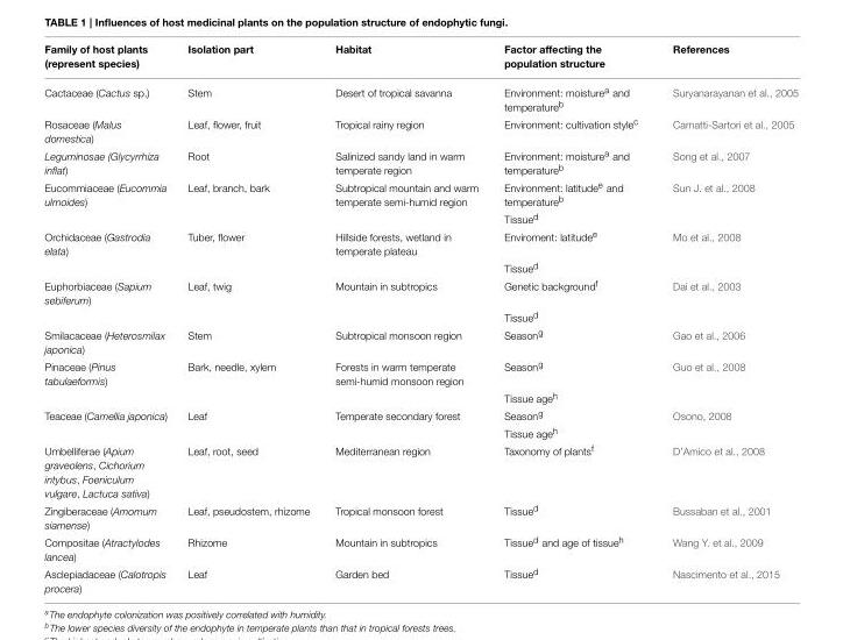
<table><thead><tr><td>Family of host plants (represent species)</td><td>Isolation part</td><td>Habitat</td><td>Factor affecting the population structure</td><td>References</td></tr></thead><tbody><tr><td>Cactaceae (Cactus sp.)</td><td>Stem</td><td>Desert of tropical savanna</td><td>Environment: moisture<sup>a</sup> and temperature<sup>b</sup></td><td>Suryanarayanan et al., 2005</td></tr><tr><td>Rosaceae (Malus domestica)</td><td>Leaf, flower, fruit</td><td>Tropical rainy region</td><td>Environment: cultivation style<sup>c</sup></td><td>Camatti-Sartori et al., 2005</td></tr><tr><td>Leguminosae (Glycyrrhiza inflat)</td><td>Root</td><td>Salinized sandy land in warm temperate region</td><td>Environment: moisture<sup>a</sup> and temperature<sup>b</sup></td><td>Song et al., 2007</td></tr><tr><td rowspan="2">Eucommiaceae (Eucommia ulmoides)</td><td>Leaf, branch, bark</td><td>Subtropical mountain and warm temperate semi-humid region</td><td>Environment: latitude<sup>e</sup> and temperature<sup>b</sup></td><td>Sun J. et al., 2008</td></tr><tr><td></td><td></td><td>Tissue<sup>d</sup></td><td></td></tr><tr><td rowspan="2">Orchidaceae (Gastrodia elata)</td><td>Tuber, flower</td><td>Hillside forests, wetland in temperate plateau</td><td>Enviroment: latitude<sup>e</sup></td><td>Mo et al., 2008</td></tr><tr><td></td><td></td><td>Tissue<sup>d</sup></td><td></td></tr><tr><td rowspan="2">Euphorbiaceae (Sapium sebiferum)</td><td>Leaf, twig</td><td>Mountain in subtropics</td><td>Genetic background<sup>f</sup></td><td>Dai et al., 2003</td></tr><tr><td></td><td></td><td>Tissue<sup>d</sup></td><td></td></tr><tr><td>Smilacaceae (Heterosmilax japonica)</td><td>Stem</td><td>Subtropical monsoon region</td><td>Season<sup>g</sup></td><td>Gao et al., 2006</td></tr><tr><td rowspan="2">Pinaceae (Pinus tabulaeformis)</td><td>Bark, needle, xylem</td><td>Forests in warm temperate semi-humid monsoon region</td><td>Season<sup>g</sup></td><td>Guo et al., 2008</td></tr><tr><td></td><td></td><td>Tissue age<sup>h</sup></td><td></td></tr><tr><td rowspan="2">Teaceae (Camellia japonica)</td><td>Leaf</td><td>Temperate secondary forest</td><td>Season<sup>g</sup></td><td>Osono, 2008</td></tr><tr><td></td><td></td><td>Tissue age<sup>h</sup></td><td></td></tr><tr><td>Umbelliferae (Apium graveolens, Cichorium intybus, Foeniculum vulgare, Lactuca sativa)</td><td>Leaf, root, seed</td><td>Mediterranean region</td><td>Taxonomy of plants<sup>f</sup></td><td>D’Amico et al., 2008</td></tr><tr><td>Zingiberaceae (Amomum siamense)</td><td>Leaf, pseudostem, rhizome</td><td>Tropical monsoon forest</td><td>Tissue<sup>d</sup></td><td>Bussaban et al., 2001</td></tr><tr><td>Compositae (Atractylodes lancea)</td><td>Rhizome</td><td>Mountain in subtropics</td><td>Tissue<sup>d</sup> and age of tissue<sup>h</sup></td><td>Wang Y. et al., 2009</td></tr><tr><td>Asclepiadaceae (Calotropis procera)</td><td>Leaf</td><td>Garden bed</td><td>Tissue<sup>d</sup></td><td>Nascimento et al., 2015</td></tr></tbody></table>